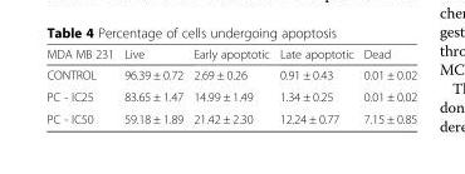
<table><thead><tr><td>MDA MB 231</td><td>Live</td><td>Early apoptotic</td><td>Late apoptotic</td><td>Dead</td></tr></thead><tbody><tr><td>CONTROL</td><td>96.39 ± 0.72</td><td>2.69 ± 0.26</td><td>0.91 ± 0.43</td><td>0.01 ± 0.02</td></tr><tr><td>PC - IC25</td><td>83.65 ± 1.47</td><td>14.99 ± 1.49</td><td>1.34 ± 0.25</td><td>0.01 ± 0.02</td></tr><tr><td>PC - IC50</td><td>59.18 ± 1.89</td><td>21.42 ± 2.30</td><td>12.24 ± 0.77</td><td>7.15 ± 0.85</td></tr></tbody></table>